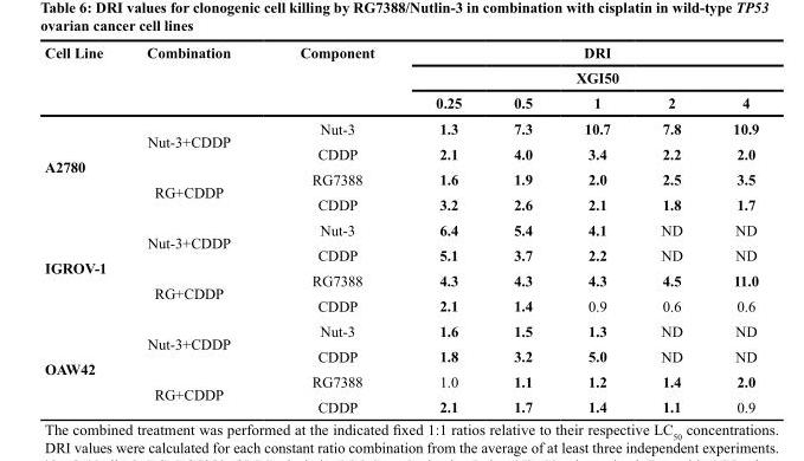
<table><thead><tr><td rowspan="3">Cell Line</td><td rowspan="3">Combination</td><td rowspan="3">Component</td><td rowspan="2" colspan="5">DRI XGI50</td></tr><tr></tr><tr><td>0.25</td><td>0.5</td><td>1</td><td>2</td><td>4</td></tr></thead><tbody><tr><td rowspan="4">A2780</td><td rowspan="2">Nut-3+CDDP</td><td>Nut-3</td><td>1.3</td><td>7.3</td><td>10.7</td><td>7.8</td><td>10.9</td></tr><tr><td>CDDP</td><td>2.1</td><td>4.0</td><td>3.4</td><td>2.2</td><td>2.0</td></tr><tr><td rowspan="2">RG+CDDP</td><td>RG7388</td><td>1.6</td><td>1.9</td><td>2.0</td><td>2.5</td><td>3.5</td></tr><tr><td>CDDP</td><td>3.2</td><td>2.6</td><td>2.1</td><td>1.8</td><td>1.7</td></tr><tr><td rowspan="4">IGROV-1</td><td rowspan="2">Nut-3+CDDP</td><td>Nut-3</td><td>6.4</td><td>5.4</td><td>4.1</td><td>ND</td><td>ND</td></tr><tr><td>CDDP</td><td>5.1</td><td>3.7</td><td>2.2</td><td>ND</td><td>ND</td></tr><tr><td rowspan="2">RG+CDDP</td><td>RG7388</td><td>4.3</td><td>4.3</td><td>4.3</td><td>4.5</td><td>11.0</td></tr><tr><td>CDDP</td><td>2.1</td><td>1.4</td><td>0.9</td><td>0.6</td><td>0.6</td></tr><tr><td rowspan="4">OAW42</td><td rowspan="2">Nut-3+CDDP</td><td>Nut-3</td><td>1.6</td><td>1.5</td><td>1.3</td><td>ND</td><td>ND</td></tr><tr><td>CDDP</td><td>1.8</td><td>3.2</td><td>5.0</td><td>ND</td><td>ND</td></tr><tr><td rowspan="2">RG+CDDP</td><td>RG7388</td><td>1.0</td><td>1.1</td><td>1.2</td><td>1.4</td><td>2.0</td></tr><tr><td>CDDP</td><td>2.1</td><td>1.7</td><td>1.4</td><td>1.1</td><td>0.9</td></tr></tbody></table>